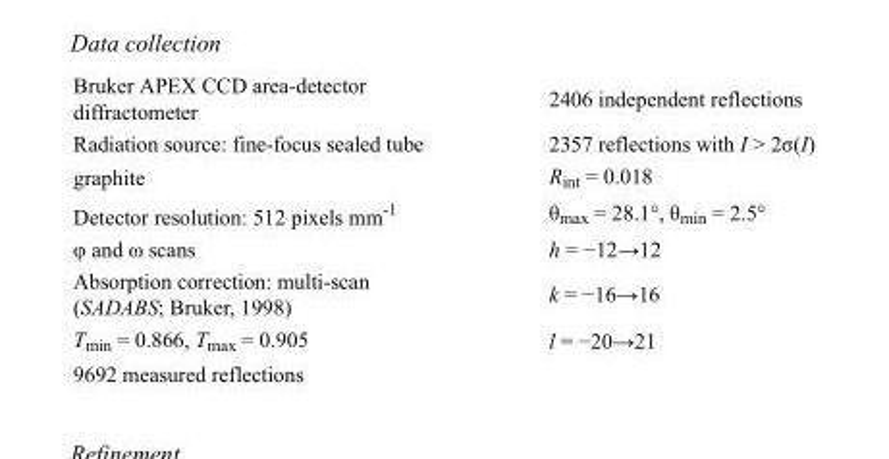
<table><tbody><tr><td>Bruker APEX CCD area-detector diffractometer</td><td>2406 independent reflections</td></tr><tr><td>Radiation source: fine-focus sealed tube</td><td>2357 reflections with I &gt; 2σ(I)</td></tr><tr><td>graphite</td><td>R<sub>int</sub> = 0.018</td></tr><tr><td>Detector resolution: 512 pixels mm<sup>-1</sup></td><td>θ<sub>max</sub> = 28.1°, θ<sub>min</sub> = 2.5°</td></tr><tr><td>φ and ω scans</td><td>h = −12→12</td></tr><tr><td>Absorption correction: multi-scan (SADABS; Bruker, 1998)</td><td>k = −16→16</td></tr><tr><td>T<sub>min</sub> = 0.866, T<sub>max</sub> = 0.905</td><td>l = −20→21</td></tr><tr><td>9692 measured reflections</td><td></td></tr></tbody></table>